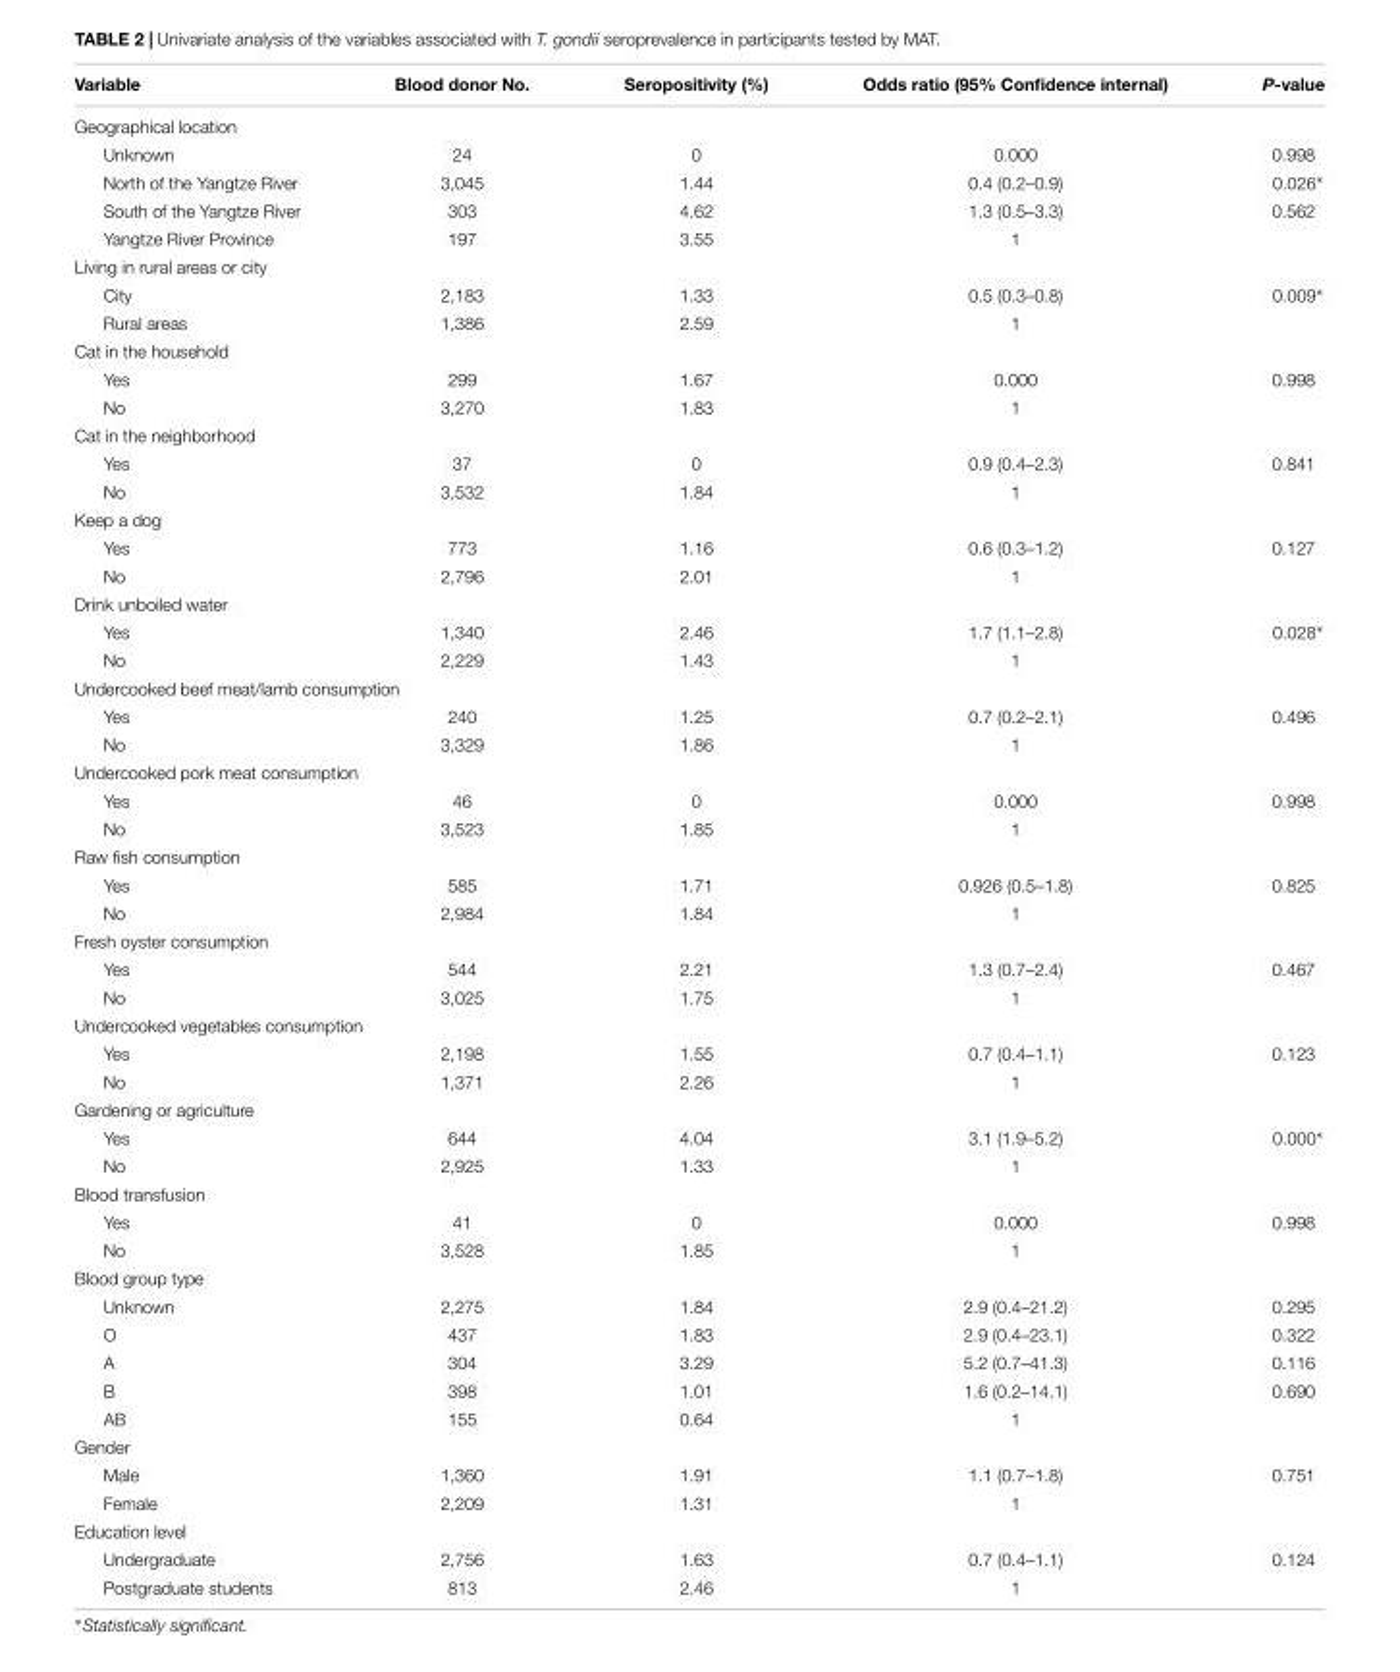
<table><thead><tr><td>Variable</td><td>Blood donor No.</td><td>Seropositivity (%)</td><td>Odds ratio (95% Confidence internal)</td><td>P-value</td></tr></thead><tbody><tr><td colspan="5">Geographical location</td></tr><tr><td>Unknown</td><td>24</td><td>0</td><td>0.000</td><td>0.998</td></tr><tr><td>North of the Yangtze River</td><td>3,045</td><td>1.44</td><td>0.4 (0.2–0.9)</td><td>0.026∗</td></tr><tr><td>South of the Yangtze River</td><td>303</td><td>4.62</td><td>1.3 (0.5–3.3)</td><td>0.562</td></tr><tr><td>Yangtze River Province</td><td>197</td><td>3.55</td><td>1</td><td></td></tr><tr><td colspan="5">Living in rural areas or city</td></tr><tr><td>City</td><td>2,183</td><td>1.33</td><td>0.5 (0.3–0.8)</td><td>0.009∗</td></tr><tr><td>Rural areas</td><td>1,386</td><td>2.59</td><td>1</td><td></td></tr><tr><td colspan="5">Cat in the household</td></tr><tr><td>Yes</td><td>299</td><td>1.67</td><td>0.000</td><td>0.998</td></tr><tr><td>No</td><td>3,270</td><td>1.83</td><td>1</td><td></td></tr><tr><td colspan="5">Cat in the neighborhood</td></tr><tr><td>Yes</td><td>37</td><td>0</td><td>0.9 (0.4–2.3)</td><td>0.841</td></tr><tr><td>No</td><td>3,532</td><td>1.84</td><td>1</td><td></td></tr><tr><td colspan="5">Keep a dog</td></tr><tr><td>Yes</td><td>773</td><td>1.16</td><td>0.6 (0.3–1.2)</td><td>0.127</td></tr><tr><td>No</td><td>2,796</td><td>2.01</td><td>1</td><td></td></tr><tr><td colspan="5">Drink unboiled water</td></tr><tr><td>Yes</td><td>1,340</td><td>2.46</td><td>1.7 (1.1–2.8)</td><td>0.028∗</td></tr><tr><td>No</td><td>2,229</td><td>1.43</td><td>1</td><td></td></tr><tr><td colspan="5">Undercooked beef meat/lamb consumption</td></tr><tr><td>Yes</td><td>240</td><td>1.25</td><td>0.7 (0.2–2.1)</td><td>0.496</td></tr><tr><td>No</td><td>3,329</td><td>1.86</td><td>1</td><td></td></tr><tr><td colspan="5">Undercooked pork meat consumption</td></tr><tr><td>Yes</td><td>46</td><td>0</td><td>0.000</td><td>0.998</td></tr><tr><td>No</td><td>3,523</td><td>1.85</td><td>1</td><td></td></tr><tr><td colspan="5">Raw fish consumption</td></tr><tr><td>Yes</td><td>585</td><td>1.71</td><td>0.926 (0.5–1.8)</td><td>0.825</td></tr><tr><td>No</td><td>2,984</td><td>1.84</td><td>1</td><td></td></tr><tr><td colspan="5">Fresh oyster consumption</td></tr><tr><td>Yes</td><td>544</td><td>2.21</td><td>1.3 (0.7–2.4)</td><td>0.467</td></tr><tr><td>No</td><td>3,025</td><td>1.75</td><td>1</td><td></td></tr><tr><td colspan="5">Undercooked vegetables consumption</td></tr><tr><td>Yes</td><td>2,198</td><td>1.55</td><td>0.7 (0.4–1.1)</td><td>0.123</td></tr><tr><td>No</td><td>1,371</td><td>2.26</td><td>1</td><td></td></tr><tr><td colspan="5">Gardening or agriculture</td></tr><tr><td>Yes</td><td>644</td><td>4.04</td><td>3.1 (1.9–5.2)</td><td>0.000∗</td></tr><tr><td>No</td><td>2,925</td><td>1.33</td><td>1</td><td></td></tr><tr><td colspan="5">Blood transfusion</td></tr><tr><td>Yes</td><td>41</td><td>0</td><td>0.000</td><td>0.998</td></tr><tr><td>No</td><td>3,528</td><td>1.85</td><td>1</td><td></td></tr><tr><td colspan="5">Blood group type</td></tr><tr><td>Unknown</td><td>2,275</td><td>1.84</td><td>2.9 (0.4–21.2)</td><td>0.295</td></tr><tr><td>O</td><td>437</td><td>1.83</td><td>2.9 (0.4–23.1)</td><td>0.322</td></tr><tr><td>A</td><td>304</td><td>3.29</td><td>5.2 (0.7–41.3)</td><td>0.116</td></tr><tr><td>B</td><td>398</td><td>1.01</td><td>1.6 (0.2–14.1)</td><td>0.690</td></tr><tr><td>AB</td><td>155</td><td>0.64</td><td>1</td><td></td></tr><tr><td colspan="5">Gender</td></tr><tr><td>Male</td><td>1,360</td><td>1.91</td><td>1.1 (0.7–1.8)</td><td>0.751</td></tr><tr><td>Female</td><td>2,209</td><td>1.31</td><td>1</td><td></td></tr><tr><td colspan="5">Education level</td></tr><tr><td>Undergraduate</td><td>2,756</td><td>1.63</td><td>0.7 (0.4–1.1)</td><td>0.124</td></tr><tr><td>Postgraduate students</td><td>813</td><td>2.46</td><td>1</td><td></td></tr></tbody></table>